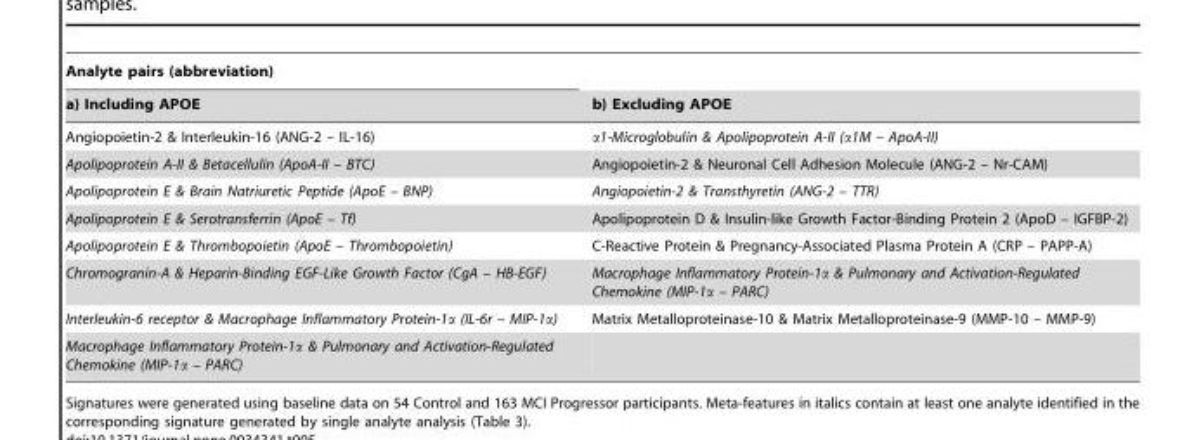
<table><thead><tr><td rowspan="2">Analyte pairs (abbreviation) a) Including APOE</td><td rowspan="2">b) Excluding APOE</td></tr><tr></tr></thead><tbody><tr><td>Angiopoietin-2 &amp; Interleukin-16 (ANG-2 – IL-16)</td><td>α1-Microglobulin &amp; Apolipoprotein A-II (α1M – ApoA-II)</td></tr><tr><td>Apolipoprotein A-II &amp; Betacellulin (ApoA-II – BTC)</td><td>Angiopoietin-2 &amp; Neuronal Cell Adhesion Molecule (ANG-2 – Nr-CAM)</td></tr><tr><td>Apolipoprotein E &amp; Brain Natriuretic Peptide (ApoE – BNP)</td><td>Angiopoietin-2 &amp; Transthyretin (ANG-2 – TTR)</td></tr><tr><td>Apolipoprotein E &amp; Serotransferrin (ApoE – Tf)</td><td>Apolipoprotein D &amp; Insulin-like Growth Factor-Binding Protein 2 (ApoD – IGFBP-2)</td></tr><tr><td>Apolipoprotein E &amp; Thrombopoietin (ApoE – Thrombopoietin)</td><td>C-Reactive Protein &amp; Pregnancy-Associated Plasma Protein A (CRP – PAPP-A)</td></tr><tr><td>Chromogranin-A &amp; Heparin-Binding EGF-Like Growth Factor (CgA – HB-EGF)</td><td>Macrophage Inflammatory Protein-1α &amp; Pulmonary and Activation-Regulated Chemokine (MIP-1α – PARC)</td></tr><tr><td>Interleukin-6 receptor &amp; Macrophage Inflammatory Protein-1α (IL-6r – MIP-1α)</td><td>Matrix Metalloproteinase-10 &amp; Matrix Metalloproteinase-9 (MMP-10 – MMP-9)</td></tr><tr><td>Macrophage Inflammatory Protein-1α &amp; Pulmonary and Activation-Regulated Chemokine (MIP-1α – PARC)</td><td></td></tr></tbody></table>